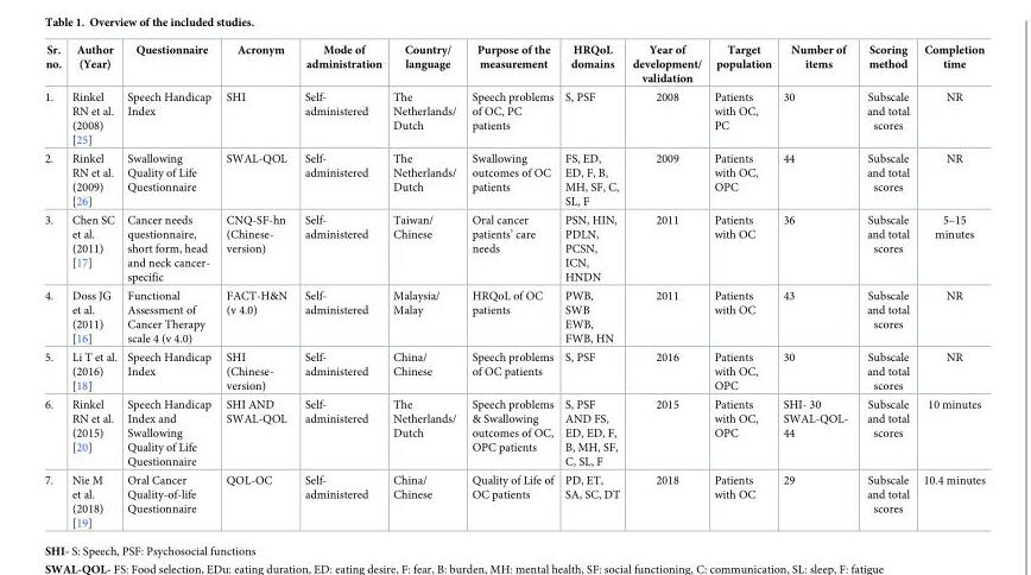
<table><thead><tr><td>Sr. no.</td><td>Author (Year)</td><td>Questionnaire</td><td>Acronym</td><td>Mode of administration</td><td>Country/ language</td><td>Purpose of the measurement</td><td>HRQoL domains</td><td>Year of development/ validation</td><td>Target population</td><td>Number of items</td><td>Scoring method</td><td>Completion time</td></tr></thead><tbody><tr><td>1.</td><td>Rinkel RN et al. (2008) [25]</td><td>Speech Handicap Index</td><td>SHI</td><td>Self- administered</td><td>The Netherlands/ Dutch</td><td>Speech problems of OC, PC patients</td><td>S, PSF</td><td>2008</td><td>Patients with OC, PC</td><td>30</td><td>Subscale and total scores</td><td>NR</td></tr><tr><td>2.</td><td>Rinkel RN et al. (2009) [26]</td><td>Swallowing Quality of Life Questionnaire</td><td>SWAL-QOL</td><td>Self- administered</td><td>The Netherlands/ Dutch</td><td>Swallowing outcomes of OC patients</td><td>FS, ED, ED, F, B, MH, SF, C, SL, F</td><td>2009</td><td>Patients with OC, OPC</td><td>44</td><td>Subscale and total scores</td><td>NR</td></tr><tr><td>3.</td><td>Chen SC et al. (2011) [17]</td><td>Cancer needs questionnaire, short form, head and neck cancer- specific</td><td>CNQ-SF-hn (Chinese- version)</td><td>Self- administered</td><td>Taiwan/ Chinese</td><td>Oral cancer patients’ care needs</td><td>PSN, HIN, PDLN, PCSN, ICN, HNDN</td><td>2011</td><td>Patients with OC</td><td>36</td><td>Subscale and total scores</td><td>5–15 minutes</td></tr><tr><td>4.</td><td>Doss JG et al. (2011) [16]</td><td>Functional Assessment of Cancer Therapy scale 4 (v 4.0)</td><td>FACT-H&amp;N (v 4.0)</td><td>Self- administered</td><td>Malaysia/ Malay</td><td>HRQoL of OC patients</td><td>PWB, SWB EWB, FWB, HN</td><td>2011</td><td>Patients with OC</td><td>43</td><td>Subscale and total scores</td><td>NR</td></tr><tr><td>5.</td><td>Li T et al. (2016) [18]</td><td>Speech Handicap Index</td><td>SHI (Chinese- version)</td><td>Self- administered</td><td>China/ Chinese</td><td>Speech problems of OC patients</td><td>S, PSF</td><td>2016</td><td>Patients with OC, OPC</td><td>30</td><td>Subscale and total scores</td><td>NR</td></tr><tr><td>6.</td><td>Rinkel RN et al. (2015) [20]</td><td>Speech Handicap Index and Swallowing Quality of Life Questionnaire</td><td>SHI AND SWAL-QOL</td><td>Self- administered</td><td>The Netherlands/ Dutch</td><td>Speech problems &amp; Swallowing outcomes of OC, OPC patients</td><td>S, PSF AND FS, ED, ED, F, B, MH, SF, C, SL, F</td><td>2015</td><td>Patients with OC, OPC</td><td>SHI- 30 SWAL-QOL- 44</td><td>Subscale and total scores</td><td>10 minutes</td></tr><tr><td>7.</td><td>Nie M et al. (2018) [19]</td><td>Oral Cancer Quality-of-life Questionnaire</td><td>QOL-OC</td><td>Self- administered</td><td>China/ Chinese</td><td>Quality of Life of OC patients</td><td>PD, ET, SA, SC, DT</td><td>2018</td><td>Patients with OC</td><td>29</td><td>Subscale and total scores</td><td>10.4 minutes</td></tr></tbody></table>